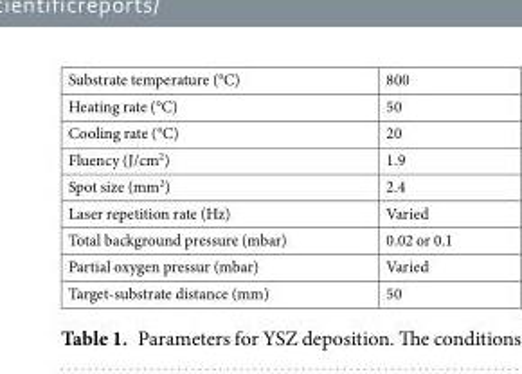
<table><tbody><tr><td>Substrate temperature (°C)</td><td>800</td></tr><tr><td>Heating rate (°C)</td><td>50</td></tr><tr><td>Cooling rate (°C)</td><td>20</td></tr><tr><td>Fluency (J/cm<sup>2</sup>)</td><td>1.9</td></tr><tr><td>Spot size (mm<sup>2</sup>)</td><td>2.4</td></tr><tr><td>Laser repetition rate (Hz)</td><td>Varied</td></tr><tr><td>Total background pressure (mbar)</td><td>0.02 or 0.1</td></tr><tr><td>Partial oxygen pressur (mbar)</td><td>Varied</td></tr><tr><td>Target-substrate distance (mm)</td><td>50</td></tr></tbody></table>